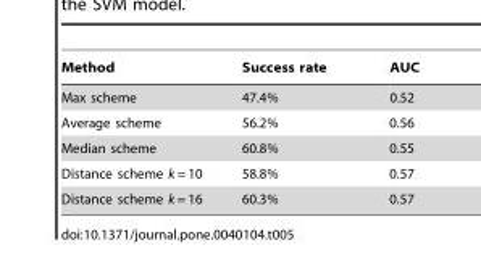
<table><thead><tr><td>Method</td><td>Success rate</td><td>AUC</td></tr></thead><tbody><tr><td>Max scheme</td><td>47.4%</td><td>0.52</td></tr><tr><td>Average scheme</td><td>56.2%</td><td>0.56</td></tr><tr><td>Median scheme</td><td>60.8%</td><td>0.55</td></tr><tr><td>Distance scheme k = 10</td><td>58.8%</td><td>0.57</td></tr><tr><td>Distance scheme k = 16</td><td>60.3%</td><td>0.57</td></tr></tbody></table>